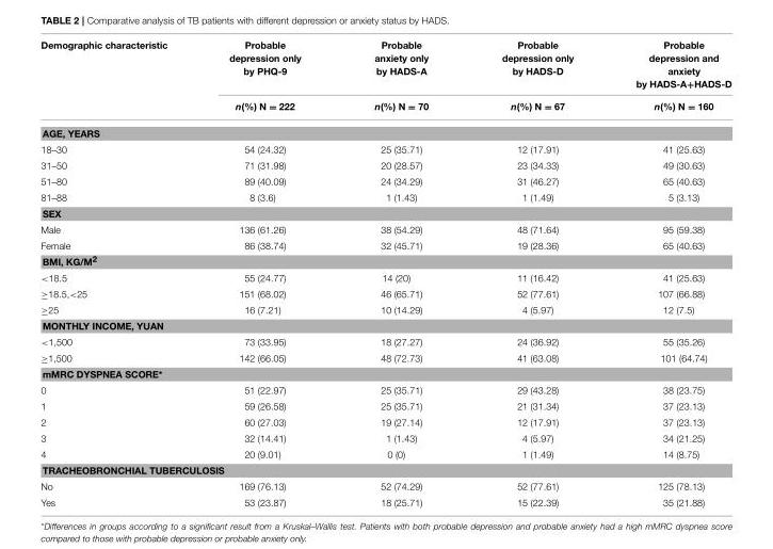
<table><thead><tr><td rowspan="2">Demographic characteristic</td><td rowspan="2">Probable depression only by PHQ-9 n(%) N = 222</td><td rowspan="2">Probable anxiety only by HADS-A n(%) N = 70</td><td rowspan="2">Probable depression only by HADS-D n(%) N = 67</td><td rowspan="2">Probable depression and anxiety by HADS-A+HADS-D n(%) N = 160</td></tr><tr></tr></thead><tbody><tr><td colspan="5">AGE, YEARS</td></tr><tr><td>18–30</td><td>54 (24.32)</td><td>25 (35.71)</td><td>12 (17.91)</td><td>41 (25.63)</td></tr><tr><td>31–50</td><td>71 (31.98)</td><td>20 (28.57)</td><td>23 (34.33)</td><td>49 (30.63)</td></tr><tr><td>51–80</td><td>89 (40.09)</td><td>24 (34.29)</td><td>31 (46.27)</td><td>65 (40.63)</td></tr><tr><td>81–88</td><td>8 (3.6)</td><td>1 (1.43)</td><td>1 (1.49)</td><td>5 (3.13)</td></tr><tr><td colspan="5">SEX</td></tr><tr><td>Male</td><td>136 (61.26)</td><td>38 (54.29)</td><td>48 (71.64)</td><td>95 (59.38)</td></tr><tr><td>Female</td><td>86 (38.74)</td><td>32 (45.71)</td><td>19 (28.36)</td><td>65 (40.63)</td></tr><tr><td colspan="5">BMI, KG/M<sup>2</sup></td></tr><tr><td>&lt;18.5</td><td>55 (24.77)</td><td>14 (20)</td><td>11 (16.42)</td><td>41 (25.63)</td></tr><tr><td>≥18.5,&lt;25</td><td>151 (68.02)</td><td>46 (65.71)</td><td>52 (77.61)</td><td>107 (66.88)</td></tr><tr><td>≥25</td><td>16 (7.21)</td><td>10 (14.29)</td><td>4 (5.97)</td><td>12 (7.5)</td></tr><tr><td colspan="5">MONTHLY INCOME, YUAN</td></tr><tr><td>&lt;1,500</td><td>73 (33.95)</td><td>18 (27.27)</td><td>24 (36.92)</td><td>55 (35.26)</td></tr><tr><td>≥1,500</td><td>142 (66.05)</td><td>48 (72.73)</td><td>41 (63.08)</td><td>101 (64.74)</td></tr><tr><td colspan="5">mMRC DYSPNEA SCORE*</td></tr><tr><td>0</td><td>51 (22.97)</td><td>25 (35.71)</td><td>29 (43.28)</td><td>38 (23.75)</td></tr><tr><td>1</td><td>59 (26.58)</td><td>25 (35.71)</td><td>21 (31.34)</td><td>37 (23.13)</td></tr><tr><td>2</td><td>60 (27.03)</td><td>19 (27.14)</td><td>12 (17.91)</td><td>37 (23.13)</td></tr><tr><td>3</td><td>32 (14.41)</td><td>1 (1.43)</td><td>4 (5.97)</td><td>34 (21.25)</td></tr><tr><td>4</td><td>20 (9.01)</td><td>0 (0)</td><td>1 (1.49)</td><td>14 (8.75)</td></tr><tr><td colspan="5">TRACHEOBRONCHIAL TUBERCULOSIS</td></tr><tr><td>No</td><td>169 (76.13)</td><td>52 (74.29)</td><td>52 (77.61)</td><td>125 (78.13)</td></tr><tr><td>Yes</td><td>53 (23.87)</td><td>18 (25.71)</td><td>15 (22.39)</td><td>35 (21.88)</td></tr></tbody></table>